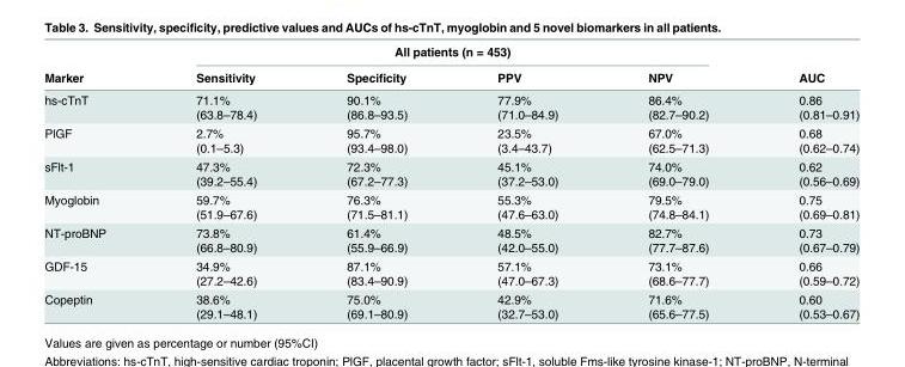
<table><thead><tr><td rowspan="2">Marker</td><td colspan="4">All patients (n = 453)</td><td rowspan="2">AUC</td></tr><tr><td>Sensitivity</td><td>Specificity</td><td>PPV</td><td>NPV</td></tr></thead><tbody><tr><td>hs-cTnT</td><td>71.1% (63.8–78.4)</td><td>90.1% (86.8–93.5)</td><td>77.9% (71.0–84.9)</td><td>86.4% (82.7–90.2)</td><td>0.86 (0.81–0.91)</td></tr><tr><td>PlGF</td><td>2.7% (0.1–5.3)</td><td>95.7% (93.4–98.0)</td><td>23.5% (3.4–43.7)</td><td>67.0% (62.5–71.3)</td><td>0.68 (0.62–0.74)</td></tr><tr><td>sFlt-1</td><td>47.3% (39.2–55.4)</td><td>72.3% (67.2–77.3)</td><td>45.1% (37.2–53.0)</td><td>74.0% (69.0–79.0)</td><td>0.62 (0.56–0.69)</td></tr><tr><td>Myoglobin</td><td>59.7% (51.9–67.6)</td><td>76.3% (71.5–81.1)</td><td>55.3% (47.6–63.0)</td><td>79.5% (74.8–84.1)</td><td>0.75 (0.69–0.81)</td></tr><tr><td>NT-proBNP</td><td>73.8% (66.8–80.9)</td><td>61.4% (55.9–66.9)</td><td>48.5% (42.0–55.0)</td><td>82.7% (77.7–87.6)</td><td>0.73 (0.67–0.79)</td></tr><tr><td>GDF-15</td><td>34.9% (27.2–42.6)</td><td>87.1% (83.4–90.9)</td><td>57.1% (47.0–67.3)</td><td>73.1% (68.6–77.7)</td><td>0.66 (0.59–0.72)</td></tr><tr><td>Copeptin</td><td>38.6% (29.1–48.1)</td><td>75.0% (69.1–80.9)</td><td>42.9% (32.7–53.0)</td><td>71.6% (65.6–77.5)</td><td>0.60 (0.53–0.67)</td></tr></tbody></table>